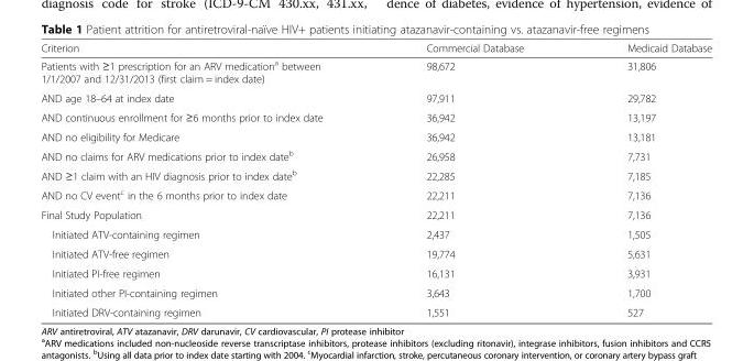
<table><thead><tr><td>Criterion</td><td>Commercial Database</td><td>Medicaid Database</td></tr></thead><tbody><tr><td>Patients with ≥1 prescription for an ARV medication<sup>a</sup> between 1/1/2007 and 12/31/2013 (first claim = index date)</td><td>98,672</td><td>31,806</td></tr><tr><td>AND age 18–64 at index date</td><td>97,911</td><td>29,782</td></tr><tr><td>AND continuous enrollment for ≥6 months prior to index date</td><td>36,942</td><td>13,197</td></tr><tr><td>AND no eligibility for Medicare</td><td>36,942</td><td>13,181</td></tr><tr><td>AND no claims for ARV medications prior to index date<sup>b</sup></td><td>26,958</td><td>7,731</td></tr><tr><td>AND ≥1 claim with an HIV diagnosis prior to index date<sup>b</sup></td><td>22,285</td><td>7,185</td></tr><tr><td>AND no CV event<sup>c</sup> in the 6 months prior to index date</td><td>22,211</td><td>7,136</td></tr><tr><td>Final Study Population</td><td>22,211</td><td>7,136</td></tr><tr><td>Initiated ATV-containing regimen</td><td>2,437</td><td>1,505</td></tr><tr><td>Initiated ATV-free regimen</td><td>19,774</td><td>5,631</td></tr><tr><td>Initiated PI-free regimen</td><td>16,131</td><td>3,931</td></tr><tr><td>Initiated other PI-containing regimen</td><td>3,643</td><td>1,700</td></tr><tr><td>Initiated DRV-containing regimen</td><td>1,551</td><td>527</td></tr></tbody></table>